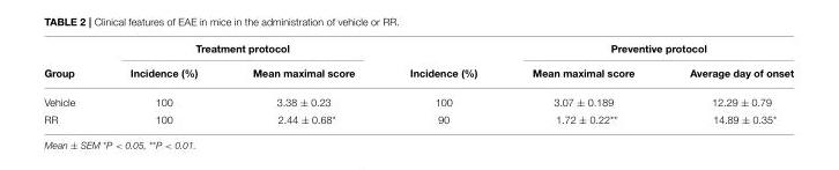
<table><thead><tr><td rowspan="2">Group</td><td colspan="2">Treatment protocol</td><td rowspan="2">Incidence (%)</td><td colspan="2">Preventive protocol</td></tr><tr><td>Incidence (%)</td><td>Mean maximal score</td><td>Mean maximal score</td><td>Average day of onset</td></tr></thead><tbody><tr><td>Vehicle</td><td>100</td><td>3.38 ± 0.23</td><td>100</td><td>3.07 ± 0.189</td><td>12.29 ± 0.79</td></tr><tr><td>RR</td><td>100</td><td>2.44 ± 0.68*</td><td>90</td><td>1.72 ± 0.22**</td><td>14.89 ± 0.35*</td></tr></tbody></table>